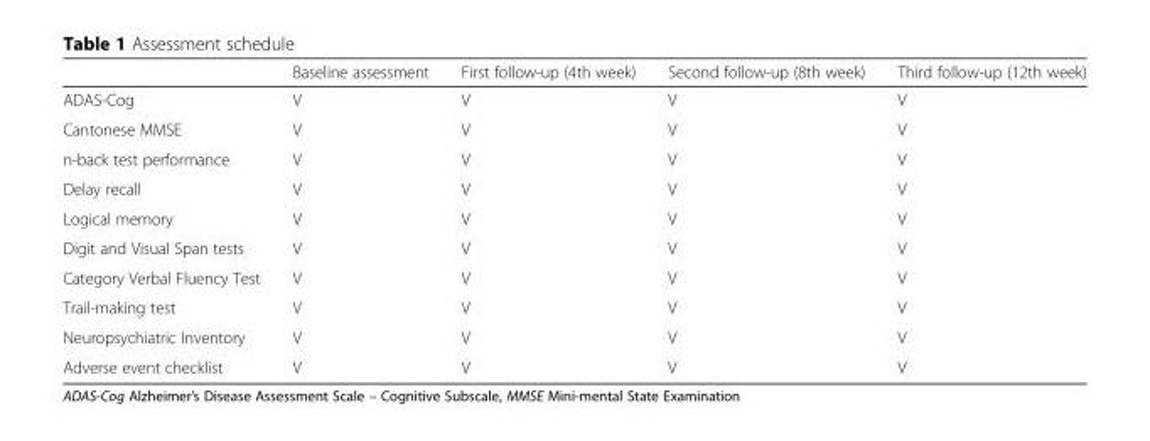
<table><thead><tr><td></td><td>Baseline assessment</td><td>First follow-up (4th week)</td><td>Second follow-up (8th week)</td><td>Third follow-up (12th week)</td></tr></thead><tbody><tr><td>ADAS-Cog</td><td>V</td><td>V</td><td>V</td><td>V</td></tr><tr><td>Cantonese MMSE</td><td>V</td><td>V</td><td>V</td><td>V</td></tr><tr><td>n-back test performance</td><td>V</td><td>V</td><td>V</td><td>V</td></tr><tr><td>Delay recall</td><td>V</td><td>V</td><td>V</td><td>V</td></tr><tr><td>Logical memory</td><td>V</td><td>V</td><td>V</td><td>V</td></tr><tr><td>Digit and Visual Span tests</td><td>V</td><td>V</td><td>V</td><td>V</td></tr><tr><td>Category Verbal Fluency Test</td><td>V</td><td>V</td><td>V</td><td>V</td></tr><tr><td>Trail-making test</td><td>V</td><td>V</td><td>V</td><td>V</td></tr><tr><td>Neuropsychiatric Inventory</td><td>V</td><td>V</td><td>V</td><td>V</td></tr><tr><td>Adverse event checklist</td><td>V</td><td>V</td><td>V</td><td>V</td></tr></tbody></table>